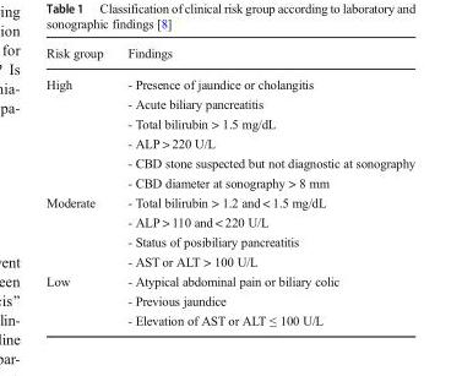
<table><thead><tr><td>Risk group</td><td>Findings</td></tr></thead><tbody><tr><td rowspan="6">High</td><td>- Presence of jaundice or cholangitis</td></tr><tr><td>- Acute biliary pancreatitis</td></tr><tr><td>- Total bilirubin &gt; 1.5 mg/dL</td></tr><tr><td>- ALP &gt; 220 U/L</td></tr><tr><td>- CBD stone suspected but not diagnostic at sonography</td></tr><tr><td>- CBD diameter at sonography &gt; 8 mm</td></tr><tr><td rowspan="4">Moderate</td><td>- Total bilirubin &gt; 1.2 and &lt; 1.5 mg/dL</td></tr><tr><td>- ALP &gt; 110 and &lt; 220 U/L</td></tr><tr><td>- Status of posibiliary pancreatitis</td></tr><tr><td>- AST or ALT &gt; 100 U/L</td></tr><tr><td rowspan="3">Low</td><td>- Atypical abdominal pain or biliary colic</td></tr><tr><td>- Previous jaundice</td></tr><tr><td>- Elevation of AST or ALT ≤ 100 U/L</td></tr></tbody></table>